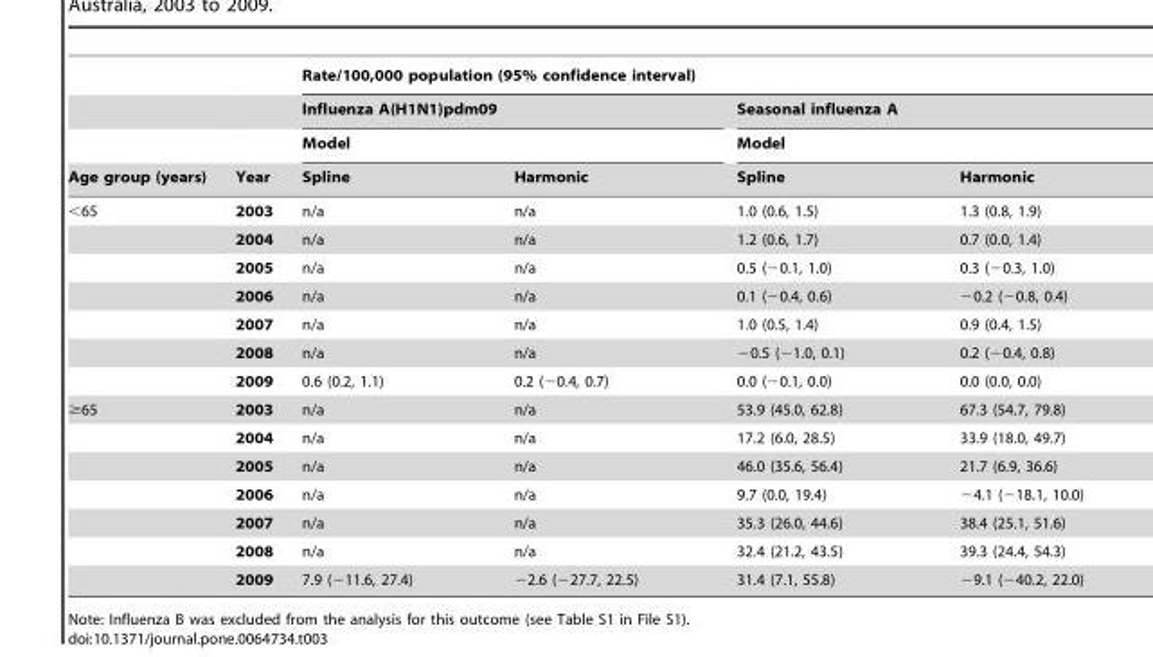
<table><thead><tr><td rowspan="4">Age group (years)</td><td rowspan="4">Year</td><td colspan="4">Rate/100,000 population (95% confidence interval)</td></tr><tr><td rowspan="2" colspan="2">Influenza A(H1N1)pdm09 Model</td><td rowspan="2" colspan="2">Seasonal influenza A Model</td></tr><tr></tr><tr><td>Spline</td><td>Harmonic</td><td>Spline</td><td>Harmonic</td></tr></thead><tbody><tr><td rowspan="7">&lt;65</td><td>2003</td><td>n/a</td><td>n/a</td><td>1.0 (0.6, 1.5)</td><td>1.3 (0.8, 1.9)</td></tr><tr><td>2004</td><td>n/a</td><td>n/a</td><td>1.2 (0.6, 1.7)</td><td>0.7 (0.0, 1.4)</td></tr><tr><td>2005</td><td>n/a</td><td>n/a</td><td>0.5 (−0.1, 1.0)</td><td>0.3 (−0.3, 1.0)</td></tr><tr><td>2006</td><td>n/a</td><td>n/a</td><td>0.1 (−0.4, 0.6)</td><td>−0.2 (−0.8, 0.4)</td></tr><tr><td>2007</td><td>n/a</td><td>n/a</td><td>1.0 (0.5, 1.4)</td><td>0.9 (0.4, 1.5)</td></tr><tr><td>2008</td><td>n/a</td><td>n/a</td><td>−0.5 (−1.0, 0.1)</td><td>0.2 (−0.4, 0.8)</td></tr><tr><td>2009</td><td>0.6 (0.2, 1.1)</td><td>0.2 (−0.4, 0.7)</td><td>0.0 (−0.1, 0.0)</td><td>0.0 (0.0, 0.0)</td></tr><tr><td rowspan="7">≥65</td><td>2003</td><td>n/a</td><td>n/a</td><td>53.9 (45.0, 62.8)</td><td>67.3 (54.7, 79.8)</td></tr><tr><td>2004</td><td>n/a</td><td>n/a</td><td>17.2 (6.0, 28.5)</td><td>33.9 (18.0, 49.7)</td></tr><tr><td>2005</td><td>n/a</td><td>n/a</td><td>46.0 (35.6, 56.4)</td><td>21.7 (6.9, 36.6)</td></tr><tr><td>2006</td><td>n/a</td><td>n/a</td><td>9.7 (0.0, 19.4)</td><td>−4.1 (−18.1, 10.0)</td></tr><tr><td>2007</td><td>n/a</td><td>n/a</td><td>35.3 (26.0, 44.6)</td><td>38.4 (25.1, 51.6)</td></tr><tr><td>2008</td><td>n/a</td><td>n/a</td><td>32.4 (21.2, 43.5)</td><td>39.3 (24.4, 54.3)</td></tr><tr><td>2009</td><td>7.9 (−11.6, 27.4)</td><td>−2.6 (−27.7, 22.5)</td><td>31.4 (7.1, 55.8)</td><td>−9.1 (−40.2, 22.0)</td></tr></tbody></table>